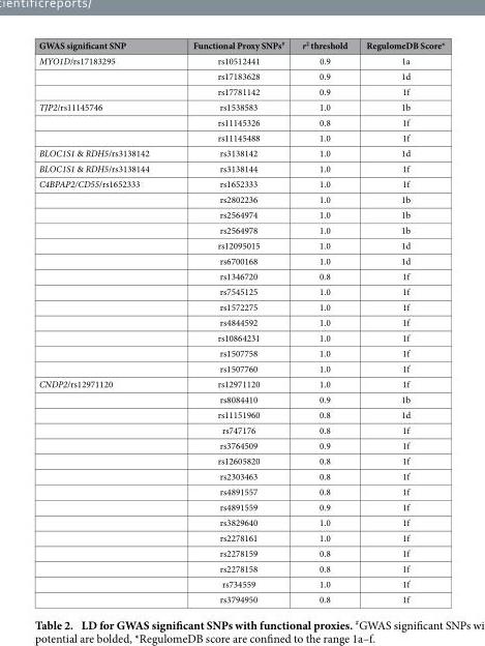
<table><thead><tr><td>GWAS significant SNP</td><td>Functional Proxy SNPs<sup>#</sup></td><td>r<sup>2</sup> threshold</td><td>RegulomeDB Score*</td></tr></thead><tbody><tr><td rowspan="3">MYO1D/rs17183295</td><td>rs10512441</td><td>0.9</td><td>1a</td></tr><tr><td>rs17183628</td><td>0.9</td><td>1d</td></tr><tr><td>rs17781142</td><td>0.9</td><td>1f</td></tr><tr><td rowspan="3">TJP2/rs11145746</td><td>rs1538583</td><td>1.0</td><td>1b</td></tr><tr><td>rs11145326</td><td>0.8</td><td>1f</td></tr><tr><td>rs11145488</td><td>1.0</td><td>1f</td></tr><tr><td>BLOC1S1 &amp; RDH5/rs3138142</td><td>rs3138142</td><td>1.0</td><td>1d</td></tr><tr><td>BLOC1S1 &amp; RDH5/rs3138144</td><td>rs3138144</td><td>1.0</td><td>1f</td></tr><tr><td rowspan="13">C4BPAP2/CD55/rs1652333</td><td>rs1652333</td><td>1.0</td><td>1f</td></tr><tr><td>rs2802236</td><td>1.0</td><td>1b</td></tr><tr><td>rs2564974</td><td>1.0</td><td>1b</td></tr><tr><td>rs2564978</td><td>1.0</td><td>1b</td></tr><tr><td>rs12095015</td><td>1.0</td><td>1d</td></tr><tr><td>rs6700168</td><td>1.0</td><td>1d</td></tr><tr><td>rs1346720</td><td>0.8</td><td>1f</td></tr><tr><td>rs7545125</td><td>1.0</td><td>1f</td></tr><tr><td>rs1572275</td><td>1.0</td><td>1f</td></tr><tr><td>rs4844592</td><td>1.0</td><td>1f</td></tr><tr><td>rs10864231</td><td>1.0</td><td>1f</td></tr><tr><td>rs1507758</td><td>1.0</td><td>1f</td></tr><tr><td>rs1507760</td><td>1.0</td><td>1f</td></tr><tr><td rowspan="15">CNDP2/rs12971120</td><td>rs12971120</td><td>1.0</td><td>1f</td></tr><tr><td>rs8084410</td><td>0.9</td><td>1b</td></tr><tr><td>rs11151960</td><td>0.8</td><td>1d</td></tr><tr><td>rs747176</td><td>0.8</td><td>1f</td></tr><tr><td>rs3764509</td><td>0.9</td><td>1f</td></tr><tr><td>rs12605820</td><td>0.8</td><td>1f</td></tr><tr><td>rs2303463</td><td>0.8</td><td>1f</td></tr><tr><td>rs4891557</td><td>0.8</td><td>1f</td></tr><tr><td>rs4891559</td><td>0.9</td><td>1f</td></tr><tr><td>rs3829640</td><td>1.0</td><td>1f</td></tr><tr><td>rs2278161</td><td>1.0</td><td>1f</td></tr><tr><td>rs2278159</td><td>0.8</td><td>1f</td></tr><tr><td>rs2278158</td><td>0.8</td><td>1f</td></tr><tr><td>rs734559</td><td>1.0</td><td>1f</td></tr><tr><td>rs3794950</td><td>0.8</td><td>1f</td></tr></tbody></table>